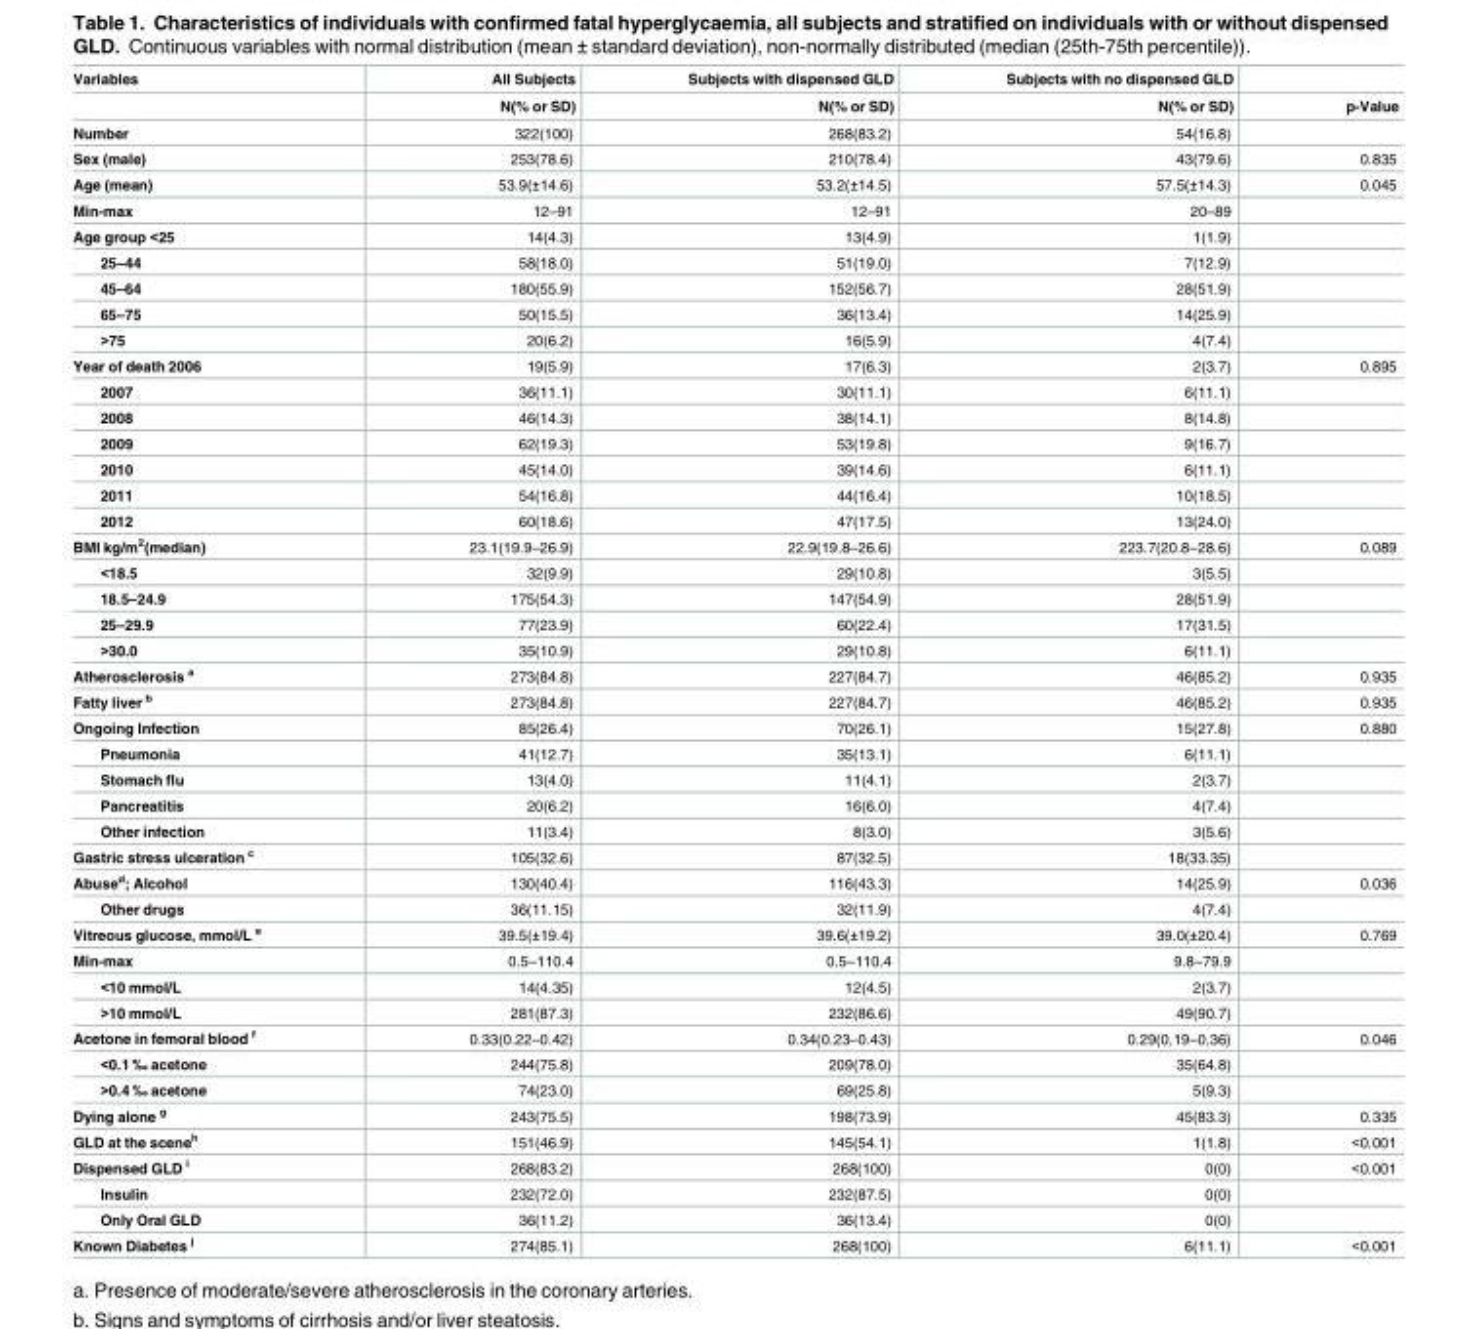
<table><thead><tr><td rowspan="2">Variables</td><td rowspan="2">All Subjects N(% or SD)</td><td rowspan="2">Subjects with dispensed GLD N(% or SD)</td><td rowspan="2">Subjects with no dispensed GLD N(% or SD)</td><td rowspan="2">p-Value</td></tr><tr></tr></thead><tbody><tr><td>Number</td><td>322(100)</td><td>268(83.2)</td><td>54(16.8)</td><td></td></tr><tr><td>Sex (male)</td><td>253(78.6)</td><td>210(78.4)</td><td>43(79.6)</td><td>0.835</td></tr><tr><td>Age (mean)</td><td>53.9(±14.6)</td><td>53.2(±14.5)</td><td>57.5(±14.3)</td><td>0.045</td></tr><tr><td>Min-max</td><td>12–91</td><td>12–91</td><td>20–89</td><td></td></tr><tr><td>Age group &lt;25</td><td>14(4.3)</td><td>13(4.9)</td><td>1(1.9)</td><td></td></tr><tr><td>25–44</td><td>58(18.0)</td><td>51(19.0)</td><td>7(12.9)</td><td></td></tr><tr><td>45–64</td><td>180(55.9)</td><td>152(56.7)</td><td>28(51.9)</td><td></td></tr><tr><td>65–75</td><td>50(15.5)</td><td>36(13.4)</td><td>14(25.9)</td><td></td></tr><tr><td>&gt;75</td><td>20(6.2)</td><td>16(5.9)</td><td>4(7.4)</td><td></td></tr><tr><td>Year of death 2006</td><td>19(5.9)</td><td>17(6.3)</td><td>2(3.7)</td><td>0.895</td></tr><tr><td>2007</td><td>36(11.1)</td><td>30(11.1)</td><td>6(11.1)</td><td></td></tr><tr><td>2008</td><td>46(14.3)</td><td>38(14.1)</td><td>8(14.8)</td><td></td></tr><tr><td>2009</td><td>62(19.3)</td><td>53(19.8)</td><td>9(16.7)</td><td></td></tr><tr><td>2010</td><td>45(14.0)</td><td>39(14.6)</td><td>6(11.1)</td><td></td></tr><tr><td>2011</td><td>54(16.8)</td><td>44(16.4)</td><td>10(18.5)</td><td></td></tr><tr><td>2012</td><td>60(18.6)</td><td>47(17.5)</td><td>13(24.0)</td><td></td></tr><tr><td>BMI kg/m<sup>2</sup>(median)</td><td>23.1(19.9–26.9)</td><td>22.9(19.8–26.6)</td><td>223.7(20.8–28.6)</td><td>0.089</td></tr><tr><td>&lt;18.5</td><td>32(9.9)</td><td>29(10.8)</td><td>3(5.5)</td><td></td></tr><tr><td>18.5–24.9</td><td>175(54.3)</td><td>147(54.9)</td><td>28(51.9)</td><td></td></tr><tr><td>25–29.9</td><td>77(23.9)</td><td>60(22.4)</td><td>17(31.5)</td><td></td></tr><tr><td>&gt;30.0</td><td>35(10.9)</td><td>29(10.8)</td><td>6(11.1)</td><td></td></tr><tr><td>Atherosclerosis <sup>a</sup></td><td>273(84.8)</td><td>227(84.7)</td><td>46(85.2)</td><td>0.935</td></tr><tr><td>Fatty liver <sup>b</sup></td><td>273(84.8)</td><td>227(84.7)</td><td>46(85.2)</td><td>0.935</td></tr><tr><td>Ongoing Infection</td><td>85(26.4)</td><td>70(26.1)</td><td>15(27.8)</td><td>0.880</td></tr><tr><td>Pneumonia</td><td>41(12.7)</td><td>35(13.1)</td><td>6(11.1)</td><td></td></tr><tr><td>Stomach flu</td><td>13(4.0)</td><td>11(4.1)</td><td>2(3.7)</td><td></td></tr><tr><td>Pancreatitis</td><td>20(6.2)</td><td>16(6.0)</td><td>4(7.4)</td><td></td></tr><tr><td>Other infection</td><td>11(3.4)</td><td>8(3.0)</td><td>3(5.6)</td><td></td></tr><tr><td>Gastric stress ulceration <sup>c</sup></td><td>105(32.6)</td><td>87(32.5)</td><td>18(33.35)</td><td></td></tr><tr><td>Abuse<sup>d</sup>; Alcohol</td><td>130(40.4)</td><td>116(43.3)</td><td>14(25.9)</td><td>0.036</td></tr><tr><td>Other drugs</td><td>36(11.15)</td><td>32(11.9)</td><td>4(7.4)</td><td></td></tr><tr><td>Vitreous glucose, mmol/L <sup>e</sup></td><td>39.5(±19.4)</td><td>39.6(±19.2)</td><td>39.0(±20.4)</td><td>0.769</td></tr><tr><td>Min-max</td><td>0.5–110.4</td><td>0.5–110.4</td><td>9.8–79.9</td><td></td></tr><tr><td>&lt;10 mmol/L</td><td>14(4.35)</td><td>12(4.5)</td><td>2(3.7)</td><td></td></tr><tr><td>&gt;10 mmol/L</td><td>281(87.3)</td><td>232(86.6)</td><td>49(90.7)</td><td></td></tr><tr><td>Acetone in femoral blood <sup>f</sup></td><td>0.33(0.22–0.42)</td><td>0.34(0.23–0.43)</td><td>0.29(0,19–0,36)</td><td>0.046</td></tr><tr><td>&lt;0.1 ‰ acetone</td><td>244(75.8)</td><td>209(78.0)</td><td>35(64.8)</td><td></td></tr><tr><td>&gt;0.4 ‰ acetone</td><td>74(23.0)</td><td>69(25.8)</td><td>5(9.3)</td><td></td></tr><tr><td>Dying alone <sup>g</sup></td><td>243(75.5)</td><td>198(73.9)</td><td>45(83.3)</td><td>0.335</td></tr><tr><td>GLD at the scene<sup>h</sup></td><td>151(46.9)</td><td>145(54.1)</td><td>1(1.8)</td><td>&lt;0.001</td></tr><tr><td>Dispensed GLD <sup>i</sup></td><td>268(83.2)</td><td>268(100)</td><td>0(0)</td><td>&lt;0.001</td></tr><tr><td>Insulin</td><td>232(72.0)</td><td>232(87.5)</td><td>0(0)</td><td></td></tr><tr><td>Only Oral GLD</td><td>36(11.2)</td><td>36(13.4)</td><td>0(0)</td><td></td></tr><tr><td>Known Diabetes <sup>j</sup></td><td>274(85.1)</td><td>268(100)</td><td>6(11.1)</td><td>&lt;0.001</td></tr></tbody></table>